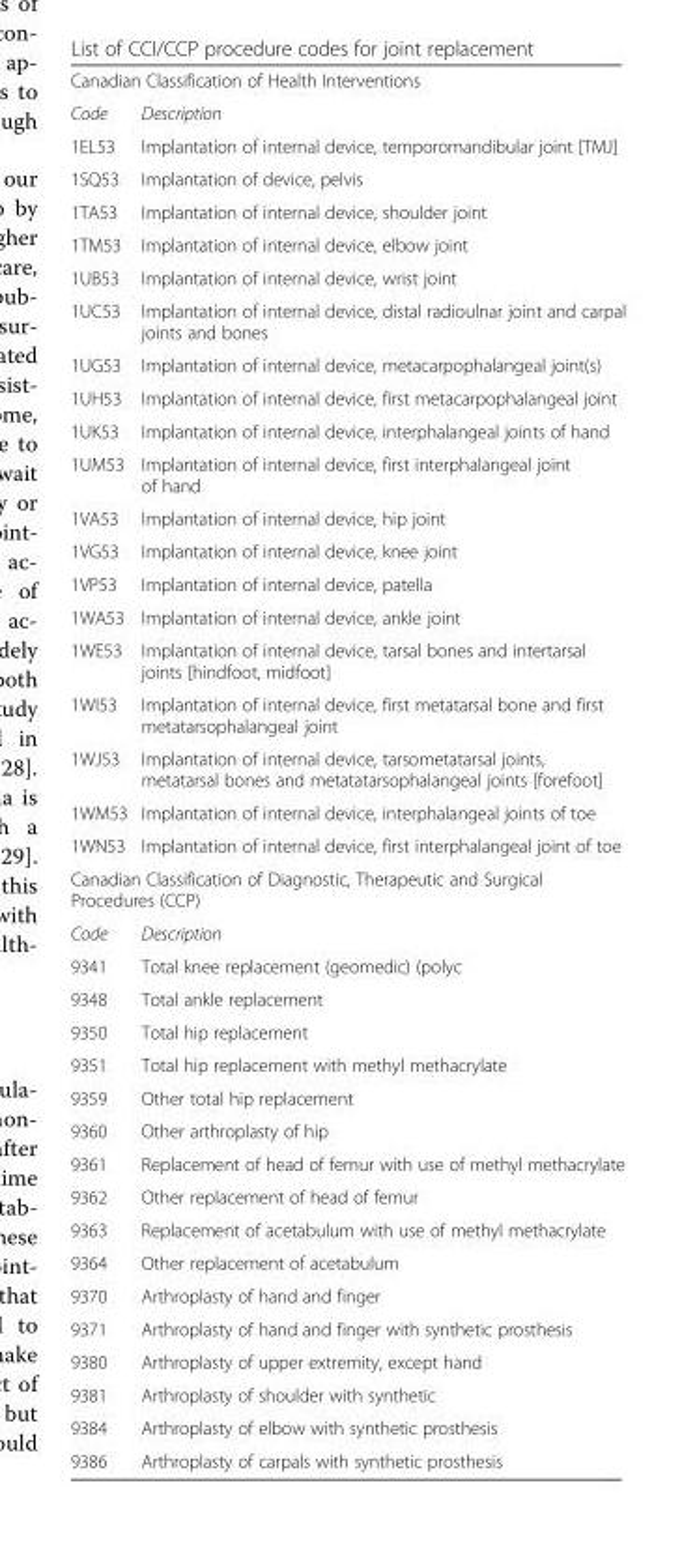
<table><tbody><tr><td colspan="2">Canadian Classification of Health Interventions</td></tr><tr><td>Code</td><td>Description</td></tr><tr><td>1EL53</td><td>Implantation of internal device, temporomandibular joint [TMJ]</td></tr><tr><td>1SQ53</td><td>Implantation of device, pelvis</td></tr><tr><td>1TA53</td><td>Implantation of internal device, shoulder joint</td></tr><tr><td>1TM53</td><td>Implantation of internal device, elbow joint</td></tr><tr><td>1UB53</td><td>Implantation of internal device, wrist joint</td></tr><tr><td>1UC53</td><td>Implantation of internal device, distal radioulnar joint and carpal joints and bones</td></tr><tr><td>1UG53</td><td>Implantation of internal device, metacarpophalangeal joint(s)</td></tr><tr><td>1UH53</td><td>Implantation of internal device, first metacarpophalangeal joint</td></tr><tr><td>1UK53</td><td>Implantation of internal device, interphalangeal joints of hand</td></tr><tr><td>1UM53</td><td>Implantation of internal device, first interphalangeal joint of hand</td></tr><tr><td>1VA53</td><td>Implantation of internal device, hip joint</td></tr><tr><td>1VG53</td><td>Implantation of internal device, knee joint</td></tr><tr><td>1VP53</td><td>Implantation of internal device, patella</td></tr><tr><td>1WA53</td><td>Implantation of internal device, ankle joint</td></tr><tr><td>1WE53</td><td>Implantation of internal device, tarsal bones and intertarsal joints [hindfoot, midfoot]</td></tr><tr><td>1WI53</td><td>Implantation of internal device, first metatarsal bone and first metatarsophalangeal joint</td></tr><tr><td>1WJ53</td><td>Implantation of internal device, tarsometatarsal joints, metatarsal bones and metatatarsophalangeal joints [forefoot]</td></tr><tr><td>1WM53</td><td>Implantation of internal device, interphalangeal joints of toe</td></tr><tr><td>1WN53</td><td>Implantation of internal device, first interphalangeal joint of toe</td></tr><tr><td colspan="2">Canadian Classification of Diagnostic, Therapeutic and Surgical Procedures (CCP)</td></tr><tr><td>Code</td><td>Description</td></tr><tr><td>9341</td><td>Total knee replacement (geomedic) (polyc</td></tr><tr><td>9348</td><td>Total ankle replacement</td></tr><tr><td>9350</td><td>Total hip replacement</td></tr><tr><td>9351</td><td>Total hip replacement with methyl methacrylate</td></tr><tr><td>9359</td><td>Other total hip replacement</td></tr><tr><td>9360</td><td>Other arthroplasty of hip</td></tr><tr><td>9361</td><td>Replacement of head of femur with use of methyl methacrylate</td></tr><tr><td>9362</td><td>Other replacement of head of femur</td></tr><tr><td>9363</td><td>Replacement of acetabulum with use of methyl methacrylate</td></tr><tr><td>9364</td><td>Other replacement of acetabulum</td></tr><tr><td>9370</td><td>Arthroplasty of hand and finger</td></tr><tr><td>9371</td><td>Arthroplasty of hand and finger with synthetic prosthesis</td></tr><tr><td>9380</td><td>Arthroplasty of upper extremity, except hand</td></tr><tr><td>9381</td><td>Arthroplasty of shoulder with synthetic</td></tr><tr><td>9384</td><td>Arthroplasty of elbow with synthetic prosthesis</td></tr><tr><td>9386</td><td>Arthroplasty of carpals with synthetic prosthesis</td></tr></tbody></table>